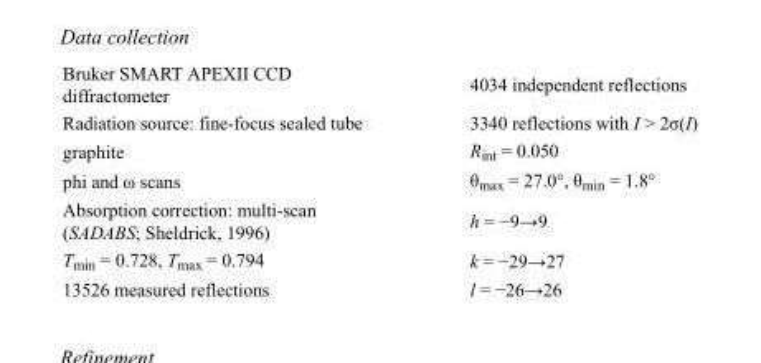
<table><tbody><tr><td>Bruker SMART APEXII CCD diffractometer</td><td>4034 independent reflections</td></tr><tr><td>Radiation source: fine-focus sealed tube</td><td>3340 reflections with I &gt; 2σ(I)</td></tr><tr><td>graphite</td><td>R<sub>int</sub> = 0.050</td></tr><tr><td>phi and ω scans</td><td>θ<sub>max</sub> = 27.0°, θ<sub>min</sub> = 1.8°</td></tr><tr><td>Absorption correction: multi-scan (SADABS; Sheldrick, 1996)</td><td>h = −9→9</td></tr><tr><td>T<sub>min</sub> = 0.728, T<sub>max</sub> = 0.794</td><td>k = −29→27</td></tr><tr><td>13526 measured reflections</td><td>l = −26→26</td></tr></tbody></table>